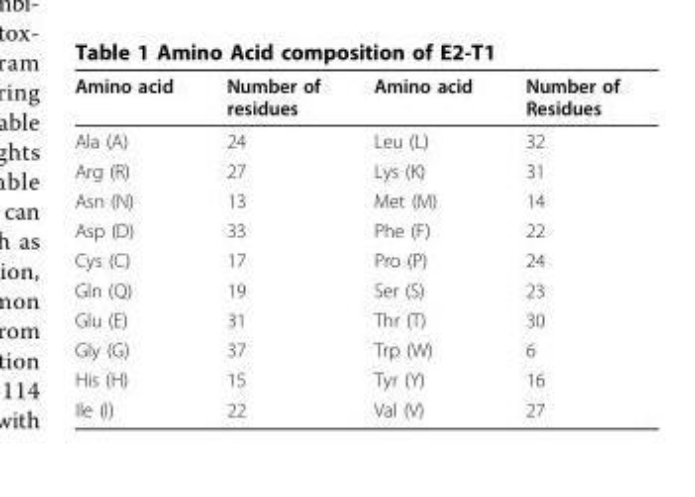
<table><thead><tr><td>Amino acid</td><td>Number of residues</td><td>Amino acid</td><td>Number of Residues</td></tr></thead><tbody><tr><td>Ala (A)</td><td>24</td><td>Leu (L)</td><td>32</td></tr><tr><td>Arg (R)</td><td>27</td><td>Lys (K)</td><td>31</td></tr><tr><td>Asn (N)</td><td>13</td><td>Met (M)</td><td>14</td></tr><tr><td>Asp (D)</td><td>33</td><td>Phe (F)</td><td>22</td></tr><tr><td>Cys (C)</td><td>17</td><td>Pro (P)</td><td>24</td></tr><tr><td>Gln (Q)</td><td>19</td><td>Ser (S)</td><td>23</td></tr><tr><td>Glu (E)</td><td>31</td><td>Thr (T)</td><td>30</td></tr><tr><td>Gly (G)</td><td>37</td><td>Trp (W)</td><td>6</td></tr><tr><td>His (H)</td><td>15</td><td>Tyr (Y)</td><td>16</td></tr><tr><td>Ile (I)</td><td>22</td><td>Val (V)</td><td>27</td></tr></tbody></table>